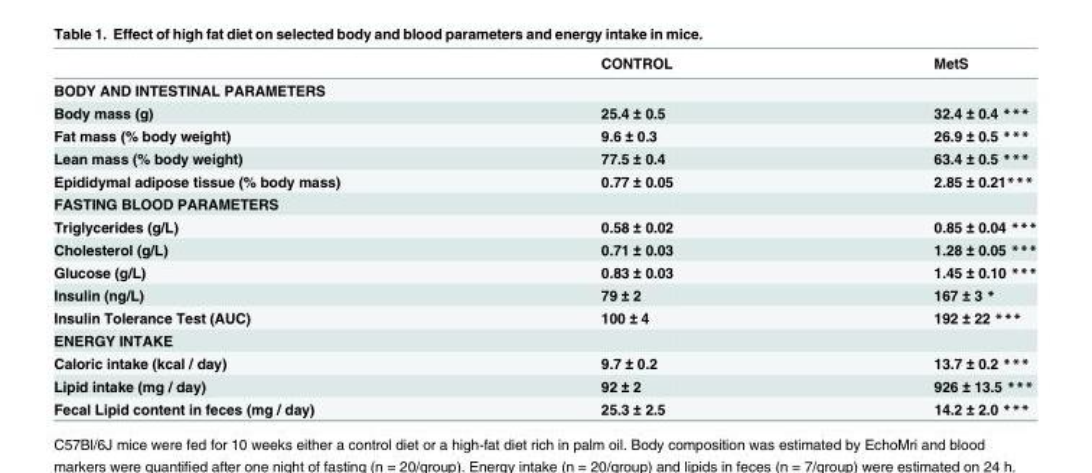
<table><thead><tr><td></td><td>CONTROL</td><td>MetS</td></tr></thead><tbody><tr><td colspan="3">BODY AND INTESTINAL PARAMETERS</td></tr><tr><td>Body mass (g)</td><td>25.4 ± 0.5</td><td>32.4 ± 0.4 ***</td></tr><tr><td>Fat mass (% body weight)</td><td>9.6 ± 0.3</td><td>26.9 ± 0.5 ***</td></tr><tr><td>Lean mass (% body weight)</td><td>77.5 ± 0.4</td><td>63.4 ± 0.5 ***</td></tr><tr><td>Epididymal adipose tissue (% body mass)</td><td>0.77 ± 0.05</td><td>2.85 ± 0.21***</td></tr><tr><td colspan="3">FASTING BLOOD PARAMETERS</td></tr><tr><td>Triglycerides (g/L)</td><td>0.58 ± 0.02</td><td>0.85 ± 0.04 ***</td></tr><tr><td>Cholesterol (g/L)</td><td>0.71 ± 0.03</td><td>1.28 ± 0.05 ***</td></tr><tr><td>Glucose (g/L)</td><td>0.83 ± 0.03</td><td>1.45 ± 0.10 ***</td></tr><tr><td>Insulin (ng/L)</td><td>79 ± 2</td><td>167 ± 3 *</td></tr><tr><td>Insulin Tolerance Test (AUC)</td><td>100 ± 4</td><td>192 ± 22 ***</td></tr><tr><td colspan="3">ENERGY INTAKE</td></tr><tr><td>Caloric intake (kcal / day)</td><td>9.7 ± 0.2</td><td>13.7 ± 0.2 ***</td></tr><tr><td>Lipid intake (mg / day)</td><td>92 ± 2</td><td>926 ± 13.5 ***</td></tr><tr><td>Fecal Lipid content in feces (mg / day)</td><td>25.3 ± 2.5</td><td>14.2 ± 2.0 ***</td></tr></tbody></table>